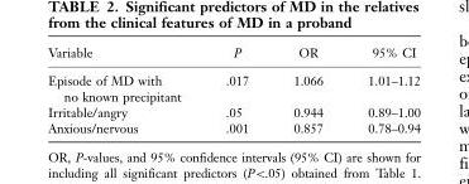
<table><thead><tr><td>Variable</td><td>P</td><td>OR</td><td>95% CI</td></tr></thead><tbody><tr><td>Episode of MD with no known precipitant</td><td>.017</td><td>1.066</td><td>1.01–1.12</td></tr><tr><td>Irritable/angry</td><td>.05</td><td>0.944</td><td>0.89–1.00</td></tr><tr><td>Anxious/nervous</td><td>.001</td><td>0.857</td><td>0.78–0.94</td></tr></tbody></table>